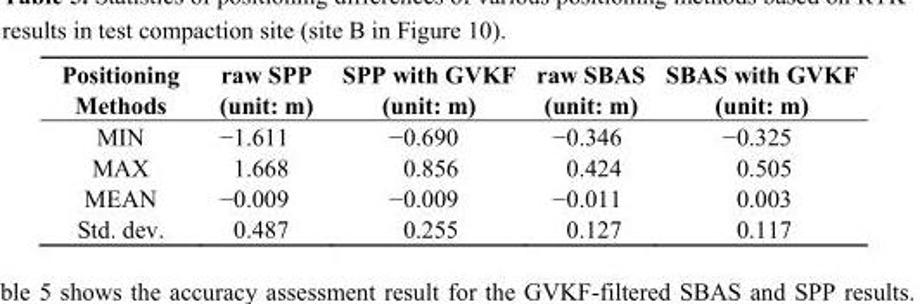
<table><thead><tr><td>Positioning Methods</td><td>raw SPP (unit: m)</td><td>SPP with GVKF (unit: m)</td><td>raw SBAS (unit: m)</td><td>SBAS with GVKF (unit: m)</td></tr></thead><tbody><tr><td>MIN</td><td>−1.611</td><td>−0.690</td><td>−0.346</td><td>−0.325</td></tr><tr><td>MAX</td><td>1.668</td><td>0.856</td><td>0.424</td><td>0.505</td></tr><tr><td>MEAN</td><td>−0.009</td><td>−0.009</td><td>−0.011</td><td>0.003</td></tr><tr><td>Std. dev.</td><td>0.487</td><td>0.255</td><td>0.127</td><td>0.117</td></tr></tbody></table>